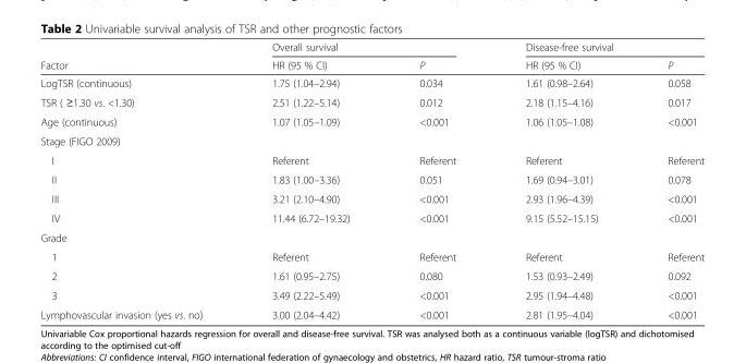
<table><thead><tr><td rowspan="2">Factor</td><td colspan="2">Overall survival</td><td colspan="2">Disease-free survival</td></tr><tr><td>HR (95 % CI)</td><td>P</td><td>HR (95 % CI)</td><td>P</td></tr></thead><tbody><tr><td>LogTSR (continuous)</td><td>1.75 (1.04–2.94)</td><td>0.034</td><td>1.61 (0.98–2.64)</td><td>0.058</td></tr><tr><td>TSR ( ≥1.30 vs. &lt;1.30)</td><td>2.51 (1.22–5.14)</td><td>0.012</td><td>2.18 (1.15–4.16)</td><td>0.017</td></tr><tr><td>Age (continuous)</td><td>1.07 (1.05–1.09)</td><td>&lt;0.001</td><td>1.06 (1.05–1.08)</td><td>&lt;0.001</td></tr><tr><td colspan="5">Stage (FIGO 2009)</td></tr><tr><td>I</td><td>Referent</td><td>Referent</td><td>Referent</td><td>Referent</td></tr><tr><td>II</td><td>1.83 (1.00–3.36)</td><td>0.051</td><td>1.69 (0.94–3.01)</td><td>0.078</td></tr><tr><td>III</td><td>3.21 (2.10–4.90)</td><td>&lt;0.001</td><td>2.93 (1.96–4.39)</td><td>&lt;0.001</td></tr><tr><td>IV</td><td>11.44 (6.72–19.32)</td><td>&lt;0.001</td><td>9.15 (5.52–15.15)</td><td>&lt;0.001</td></tr><tr><td colspan="5">Grade</td></tr><tr><td>1</td><td>Referent</td><td>Referent</td><td>Referent</td><td>Referent</td></tr><tr><td>2</td><td>1.61 (0.95–2.75)</td><td>0.080</td><td>1.53 (0.93–2.49)</td><td>0.092</td></tr><tr><td>3</td><td>3.49 (2.22–5.49)</td><td>&lt;0.001</td><td>2.95 (1.94–4.48)</td><td>&lt;0.001</td></tr><tr><td>Lymphovascular invasion (yes vs. no)</td><td>3.00 (2.04–4.42)</td><td>&lt;0.001</td><td>2.81 (1.95–4.04)</td><td>&lt;0.001</td></tr></tbody></table>